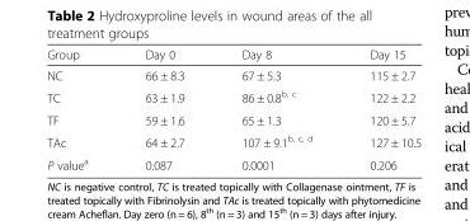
<table><thead><tr><td>Group</td><td>Day 0</td><td>Day 8</td><td>Day 15</td></tr></thead><tbody><tr><td>NC</td><td>66 ± 8.3</td><td>67 ± 5.3</td><td>115 ± 2.7</td></tr><tr><td>TC</td><td>63 ± 1.9</td><td>86 ± 0.8<sup>b, c</sup></td><td>122 ± 2.2</td></tr><tr><td>TF</td><td>59 ± 1.6</td><td>65 ± 1.3</td><td>120 ± 5.7</td></tr><tr><td>TAc</td><td>64 ± 2.7</td><td>107 ± 9.1<sup>b, c, d</sup></td><td>127 ± 10.5</td></tr><tr><td>P value<sup>a</sup></td><td>0.087</td><td>0.0001</td><td>0.206</td></tr></tbody></table>